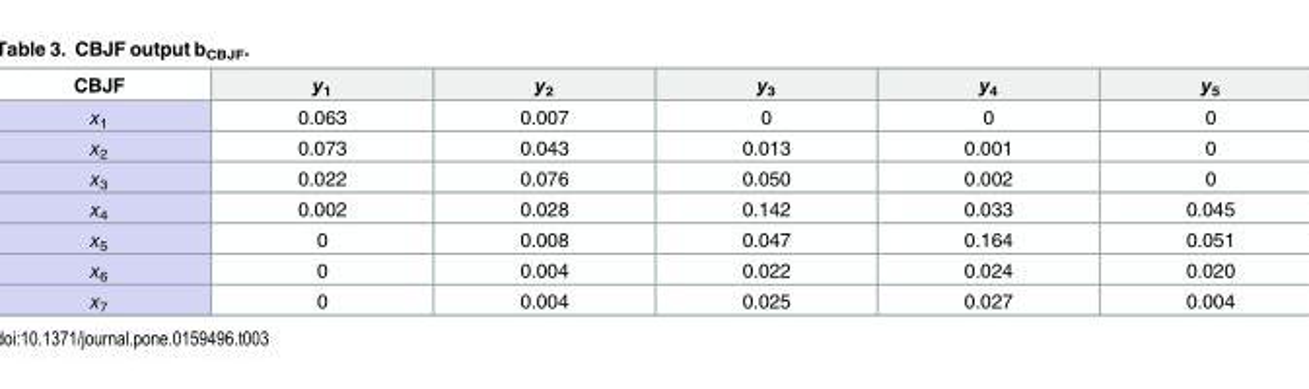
<table><thead><tr><td>CBJF</td><td>y<sub>1</sub></td><td>y<sub>2</sub></td><td>y<sub>3</sub></td><td>y<sub>4</sub></td><td>y<sub>5</sub></td></tr></thead><tbody><tr><td>x<sub>1</sub></td><td>0.063</td><td>0.007</td><td>0</td><td>0</td><td>0</td></tr><tr><td>x<sub>2</sub></td><td>0.073</td><td>0.043</td><td>0.013</td><td>0.001</td><td>0</td></tr><tr><td>x<sub>3</sub></td><td>0.022</td><td>0.076</td><td>0.050</td><td>0.002</td><td>0</td></tr><tr><td>x<sub>4</sub></td><td>0.002</td><td>0.028</td><td>0.142</td><td>0.033</td><td>0.045</td></tr><tr><td>x<sub>5</sub></td><td>0</td><td>0.008</td><td>0.047</td><td>0.164</td><td>0.051</td></tr><tr><td>x<sub>6</sub></td><td>0</td><td>0.004</td><td>0.022</td><td>0.024</td><td>0.020</td></tr><tr><td>x<sub>7</sub></td><td>0</td><td>0.004</td><td>0.025</td><td>0.027</td><td>0.004</td></tr></tbody></table>